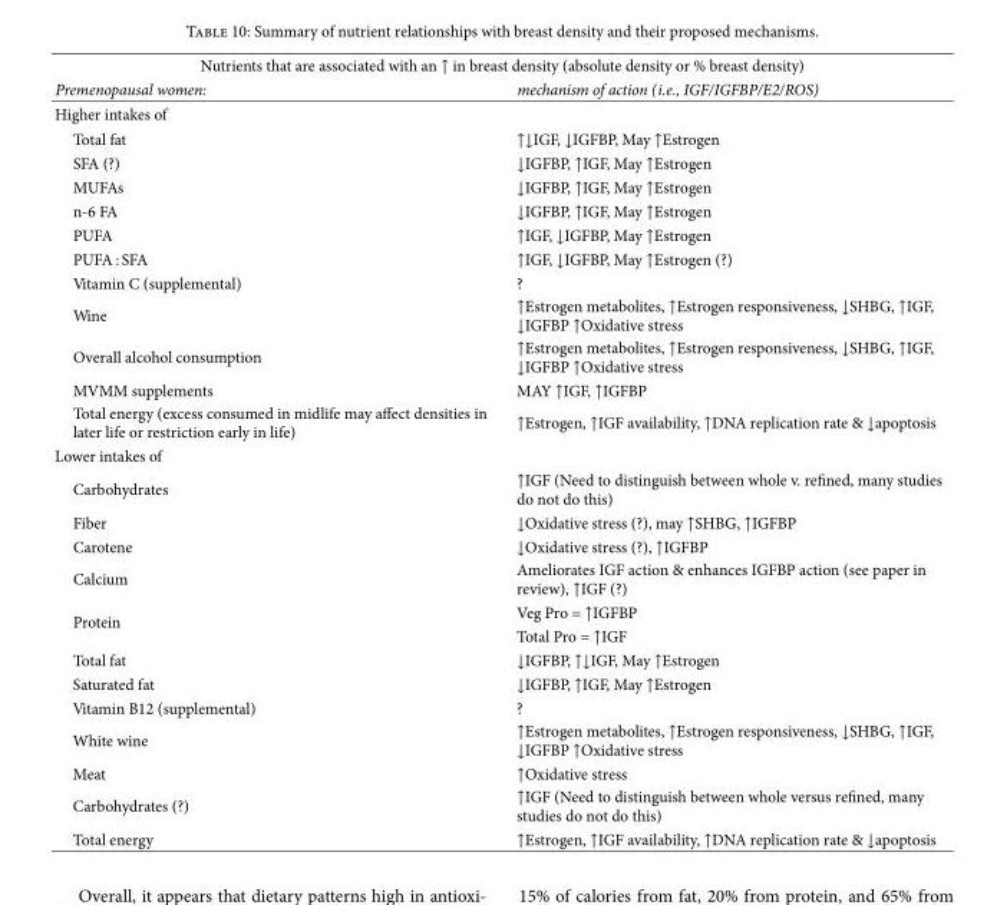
<table><thead><tr><td colspan="2">Nutrients that are associated with an ↑ in breast density (absolute density or % breast density)</td></tr><tr><td>Premenopausal women:</td><td>mechanism of action (i.e., IGF/IGFBP/E2/ROS)</td></tr></thead><tbody><tr><td colspan="2">Higher intakes of</td></tr><tr><td>Total fat</td><td>↑↓IGF, ↓IGFBP, May ↑Estrogen</td></tr><tr><td>SFA (?)</td><td>↓IGFBP, ↑IGF, May ↑Estrogen</td></tr><tr><td>MUFAs</td><td>↓IGFBP, ↑IGF, May ↑Estrogen</td></tr><tr><td>n-6 FA</td><td>↓IGFBP, ↑IGF, May ↑Estrogen</td></tr><tr><td>PUFA</td><td>↑IGF, ↓IGFBP, May ↑Estrogen</td></tr><tr><td>PUFA : SFA</td><td>↑IGF, ↓IGFBP, May ↑Estrogen (?)</td></tr><tr><td>Vitamin C (supplemental)</td><td>?</td></tr><tr><td>Wine</td><td>↑Estrogen metabolites, ↑Estrogen responsiveness, ↓SHBG, ↑IGF, ↓IGFBP ↑Oxidative stress</td></tr><tr><td>Overall alcohol consumption</td><td>↑Estrogen metabolites, ↑Estrogen responsiveness, ↓SHBG, ↑IGF, ↓IGFBP ↑Oxidative stress</td></tr><tr><td>MVMM supplements</td><td>MAY ↑IGF, ↑IGFBP</td></tr><tr><td>Total energy (excess consumed in midlife may affect densities in later life or restriction early in life)</td><td>↑Estrogen, ↑IGF availability, ↑DNA replication rate &amp; ↓apoptosis</td></tr><tr><td colspan="2">Lower intakes of</td></tr><tr><td>Carbohydrates</td><td>↑IGF (Need to distinguish between whole v. re�ned, many studies do not do this)</td></tr><tr><td>Fiber</td><td>↓Oxidative stress (?), may ↑SHBG, ↑IGFBP</td></tr><tr><td>Carotene</td><td>↓Oxidative stress (?), ↑IGFBP</td></tr><tr><td>Calcium</td><td>Ameliorates IGF action &amp; enhances IGFBP action (see paper in review), ↑IGF (?)</td></tr><tr><td rowspan="2">Protein</td><td>Veg Pro = ↑IGFBP</td></tr><tr><td>Total Pro = ↑IGF</td></tr><tr><td>Total fat</td><td>↓IGFBP, ↑↓IGF, May ↑Estrogen</td></tr><tr><td>Saturated fat</td><td>↓IGFBP, ↑IGF, May ↑Estrogen</td></tr><tr><td>Vitamin B12 (supplemental)</td><td>?</td></tr><tr><td>White wine</td><td>↑Estrogen metabolites, ↑Estrogen responsiveness, ↓SHBG, ↑IGF, ↓IGFBP ↑Oxidative stress</td></tr><tr><td>Meat</td><td>↑Oxidative stress</td></tr><tr><td>Carbohydrates (?)</td><td>↑IGF (Need to distinguish between whole versus re�ned, many studies do not do this)</td></tr><tr><td>Total energy</td><td>↑Estrogen, ↑IGF availability, ↑DNA replication rate &amp; ↓apoptosis</td></tr></tbody></table>